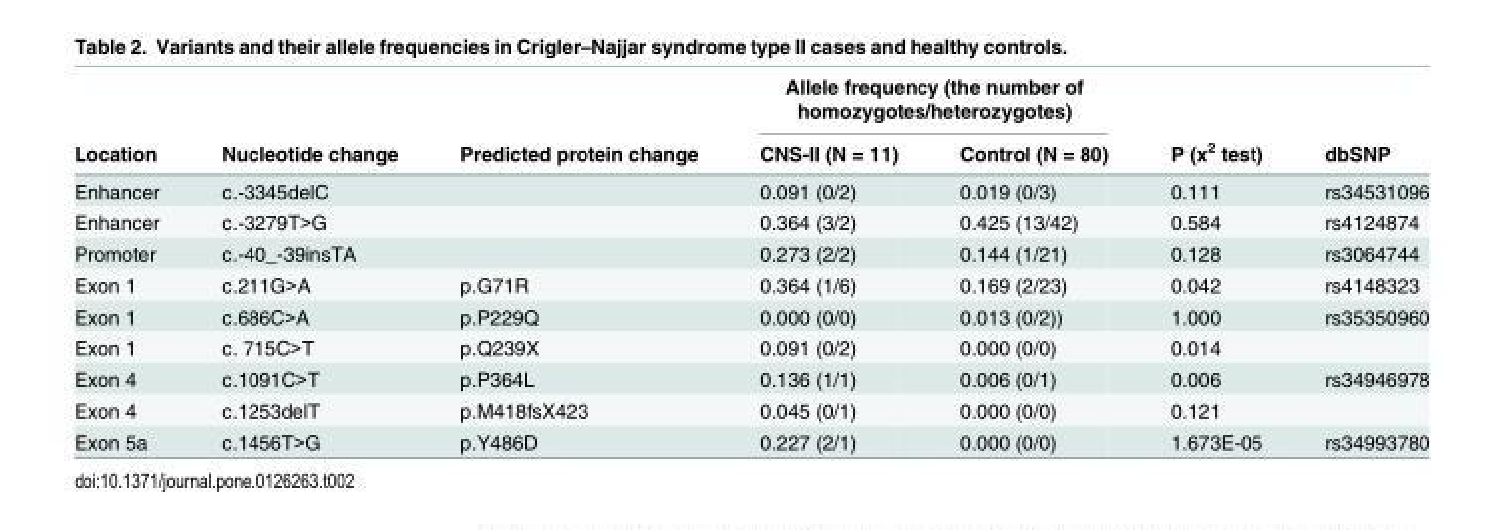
<table><thead><tr><td rowspan="2">Location</td><td rowspan="2">Nucleotide change</td><td rowspan="2">Predicted protein change</td><td colspan="2">Allele frequency (the number of homozygotes/heterozygotes)</td><td rowspan="2">P (x<sup>2</sup> test)</td><td rowspan="2">dbSNP</td></tr><tr><td>CNS-II (N = 11)</td><td>Control (N = 80)</td></tr></thead><tbody><tr><td>Enhancer</td><td>c.-3345delC</td><td></td><td>0.091 (0/2)</td><td>0.019 (0/3)</td><td>0.111</td><td>rs34531096</td></tr><tr><td>Enhancer</td><td>c.-3279T&gt;G</td><td></td><td>0.364 (3/2)</td><td>0.425 (13/42)</td><td>0.584</td><td>rs4124874</td></tr><tr><td>Promoter</td><td>c.-40_-39insTA</td><td></td><td>0.273 (2/2)</td><td>0.144 (1/21)</td><td>0.128</td><td>rs3064744</td></tr><tr><td>Exon 1</td><td>c.211G&gt;A</td><td>p.G71R</td><td>0.364 (1/6)</td><td>0.169 (2/23)</td><td>0.042</td><td>rs4148323</td></tr><tr><td>Exon 1</td><td>c.686C&gt;A</td><td>p.P229Q</td><td>0.000 (0/0)</td><td>0.013 (0/2))</td><td>1.000</td><td>rs35350960</td></tr><tr><td>Exon 1</td><td>c. 715C&gt;T</td><td>p.Q239X</td><td>0.091 (0/2)</td><td>0.000 (0/0)</td><td>0.014</td><td></td></tr><tr><td>Exon 4</td><td>c.1091C&gt;T</td><td>p.P364L</td><td>0.136 (1/1)</td><td>0.006 (0/1)</td><td>0.006</td><td>rs34946978</td></tr><tr><td>Exon 4</td><td>c.1253delT</td><td>p.M418fsX423</td><td>0.045 (0/1)</td><td>0.000 (0/0)</td><td>0.121</td><td></td></tr><tr><td>Exon 5a</td><td>c.1456T&gt;G</td><td>p.Y486D</td><td>0.227 (2/1)</td><td>0.000 (0/0)</td><td>1.673E-05</td><td>rs34993780</td></tr></tbody></table>